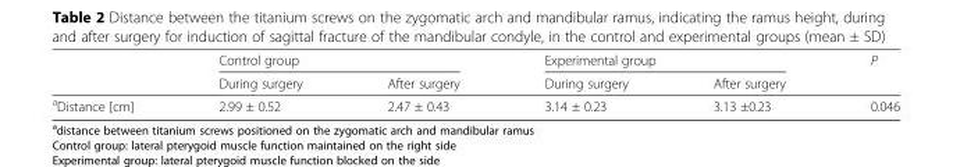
<table><thead><tr><td rowspan="2"></td><td colspan="2">Control group</td><td colspan="2">Experimental group</td><td rowspan="2">P</td></tr><tr><td>During surgery</td><td>After surgery</td><td>During surgery</td><td>After surgery</td></tr></thead><tbody><tr><td><sup>a</sup>Distance [cm]</td><td>2.99 ± 0.52</td><td>2.47 ± 0.43</td><td>3.14 ± 0.23</td><td>3.13 ±0.23</td><td>0.046</td></tr></tbody></table>